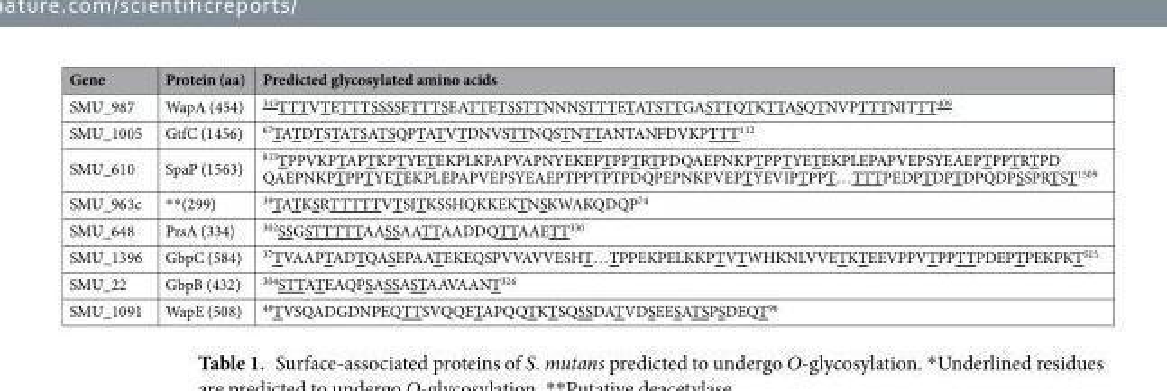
<table><thead><tr><td>Gene</td><td>Protein (aa)</td><td>Predicted glycosylated amino acids</td></tr></thead><tbody><tr><td>SMU_987</td><td>WapA (454)</td><td><sup>343</sup>TTTVTETTTSSSSETTTSEATTETSSTTNNNSTTTETATSTTGASTTQTKTTASQTNVPTTTNITTT<sup>409</sup></td></tr><tr><td>SMU_1005</td><td>GtfC (1456)</td><td><sup>67</sup>TATDTSTATSATSQPTATVTDNVSTTNQSTNTTANTANFDVKPTTT<sup>112</sup></td></tr><tr><td>SMU_610</td><td>SpaP (1563)</td><td><sup>833</sup>TPPVKPTAPTKPTYETEKPLKPAPVAPNYEKEPTPPTRTPDQAEPNKPTPPTYETEKPLEPAPVEPSYEAEPTPPTRTPD QAEPNKPTPPTYETEKPLEPAPVEPSYEAEPTPPTPTPDQPEPNKPVEPTYEVIPTPPT…TTTPEDPTDPTDPQDPSSPRTST<sup>1509</sup></td></tr><tr><td>SMU_963c</td><td>**(299)</td><td><sup>39</sup>TATKSRTTTTTVTSITKSSHQKKEKTNSKWAKQDQP<sup>74</sup></td></tr><tr><td>SMU_648</td><td>PrsA (334)</td><td><sup>302</sup>SSGSTTTTTAASSAATTAADDQTTAAETT<sup>330</sup></td></tr><tr><td>SMU_1396</td><td>GbpC (584)</td><td><sup>37</sup>TVAAPTADTQASEPAATEKEQSPVVAVVESHT…TPPEKPELKKPTVTWHKNLVVETKTEEVPPVTPPTTPDEPTPEKPKT<sup>515</sup></td></tr><tr><td>SMU_22</td><td>GbpB (432)</td><td><sup>304</sup>STTATEAQPSASSASTAAVAANT<sup>326</sup></td></tr><tr><td>SMU_1091</td><td>WapE (508)</td><td><sup>48</sup>TVSQADGDNPEQTTSVQQETAPQQTKTSQSSDATVDSEESATSPSDEQT<sup>96</sup></td></tr></tbody></table>